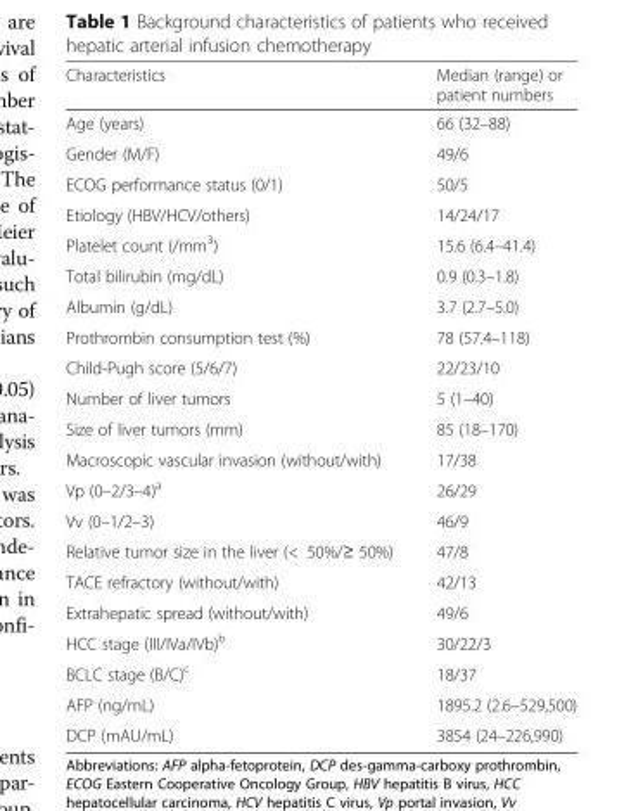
<table><thead><tr><td>Characteristics</td><td>Median (range) or patient numbers</td></tr></thead><tbody><tr><td>Age (years)</td><td>66 (32–88)</td></tr><tr><td>Gender (M/F)</td><td>49/6</td></tr><tr><td>ECOG performance status (0/1)</td><td>50/5</td></tr><tr><td>Etiology (HBV/HCV/others)</td><td>14/24/17</td></tr><tr><td>Platelet count (/mm<sup>3</sup>)</td><td>15.6 (6.4–41.4)</td></tr><tr><td>Total bilirubin (mg/dL)</td><td>0.9 (0.3–1.8)</td></tr><tr><td>Albumin (g/dL)</td><td>3.7 (2.7–5.0)</td></tr><tr><td>Prothrombin consumption test (%)</td><td>78 (57.4–118)</td></tr><tr><td>Child-Pugh score (5/6/7)</td><td>22/23/10</td></tr><tr><td>Number of liver tumors</td><td>5 (1–40)</td></tr><tr><td>Size of liver tumors (mm)</td><td>85 (18–170)</td></tr><tr><td>Macroscopic vascular invasion (without/with)</td><td>17/38</td></tr><tr><td>Vp (0–2/3–4)<sup>a</sup></td><td>26/29</td></tr><tr><td>Vv (0–1/2–3)</td><td>46/9</td></tr><tr><td>Relative tumor size in the liver (&lt; 50%/≥ 50%)</td><td>47/8</td></tr><tr><td>TACE refractory (without/with)</td><td>42/13</td></tr><tr><td>Extrahepatic spread (without/with)</td><td>49/6</td></tr><tr><td>HCC stage (III/IVa/IVb)<sup>b</sup></td><td>30/22/3</td></tr><tr><td>BCLC stage (B/C)<sup>c</sup></td><td>18/37</td></tr><tr><td>AFP (ng/mL)</td><td>1895.2 (2.6–529,500)</td></tr><tr><td>DCP (mAU/mL)</td><td>3854 (24–226,990)</td></tr></tbody></table>